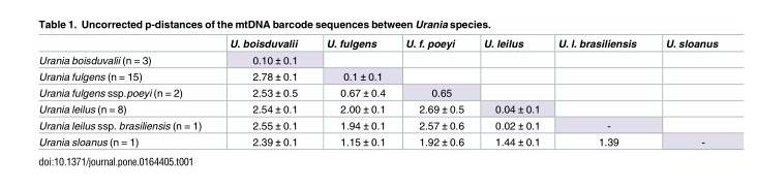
<table><thead><tr><td></td><td>U. boisduvalii</td><td>U. fulgens</td><td>U. f. poeyi</td><td>U. leilus</td><td>U. l. brasiliensis</td><td>U. sloanus</td></tr></thead><tbody><tr><td>Urania boisduvalii (n = 3)</td><td>0.10 ± 0.1</td><td></td><td></td><td></td><td></td><td></td></tr><tr><td>Urania fulgens (n = 15)</td><td>2.78 ± 0.1</td><td>0.1 ± 0.1</td><td></td><td></td><td></td><td></td></tr><tr><td>Urania fulgens ssp.poeyi (n = 2)</td><td>2.53 ± 0.5</td><td>0.67 ± 0.4</td><td>0.65</td><td></td><td></td><td></td></tr><tr><td>Urania leilus (n = 8)</td><td>2.54 ± 0.1</td><td>2.00 ± 0.1</td><td>2.69 ± 0.5</td><td>0.04 ± 0.1</td><td></td><td></td></tr><tr><td>Urania leilus ssp. brasiliensis (n = 1)</td><td>2.55 ± 0.1</td><td>1.94 ± 0.1</td><td>2.57 ± 0.6</td><td>0.02 ± 0.1</td><td>-</td><td></td></tr><tr><td>Urania sloanus (n = 1)</td><td>2.39 ± 0.1</td><td>1.15 ± 0.1</td><td>1.92 ± 0.6</td><td>1.44 ± 0.1</td><td>1.39</td><td>-</td></tr></tbody></table>